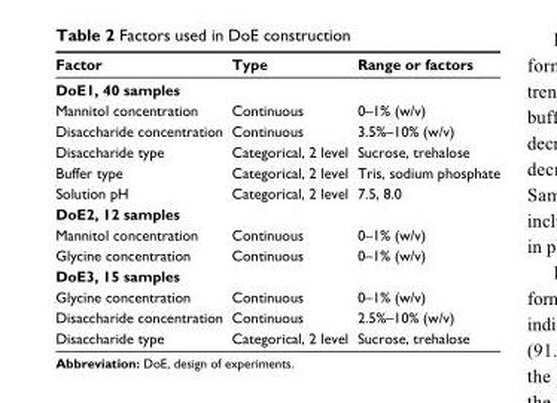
<table><thead><tr><td>Factor</td><td>Type</td><td>Range or factors</td></tr></thead><tbody><tr><td colspan="3">DoE1, 40 samples</td></tr><tr><td>Mannitol concentration</td><td>continuous</td><td>0–1% (w/v)</td></tr><tr><td>Disaccharide concentration</td><td>continuous</td><td>3.5%–10% (w/v)</td></tr><tr><td>Disaccharide type</td><td>categorical, 2 level</td><td>sucrose, trehalose</td></tr><tr><td>Buffer type</td><td>categorical, 2 level</td><td>Tris, sodium phosphate</td></tr><tr><td>solution ph</td><td>categorical, 2 level</td><td>7.5, 8.0</td></tr><tr><td colspan="3">DoE2, 12 samples</td></tr><tr><td>Mannitol concentration</td><td>continuous</td><td>0–1% (w/v)</td></tr><tr><td>glycine concentration</td><td>continuous</td><td>0–1% (w/v)</td></tr><tr><td colspan="3">DoE3, 15 samples</td></tr><tr><td>glycine concentration</td><td>continuous</td><td>0–1% (w/v)</td></tr><tr><td>Disaccharide concentration</td><td>continuous</td><td>2.5%–10% (w/v)</td></tr><tr><td>Disaccharide type</td><td>categorical, 2 level</td><td>sucrose, trehalose</td></tr></tbody></table>